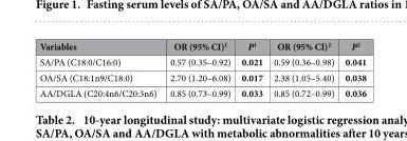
<table><thead><tr><td>Variables</td><td>OR (95% CI)<sup>1</sup></td><td>P<sup>1</sup></td><td>OR (95% CI)<sup>2</sup></td><td>P<sup>2</sup></td></tr></thead><tbody><tr><td>SA/PA (C18:0/C16:0)</td><td>0.57 (0.35–0.92)</td><td>0.021</td><td>0.59 (0.36–0.98)</td><td>0.041</td></tr><tr><td>OA/SA (C18:1n9/C18:0)</td><td>2.70 (1.20–6.08)</td><td>0.017</td><td>2.38 (1.05–5.40)</td><td>0.038</td></tr><tr><td>AA/DGLA (C20:4n6/C20:3n6)</td><td>0.85 (0.73–0.99)</td><td>0.033</td><td>0.85 (0.72–0.99)</td><td>0.036</td></tr></tbody></table>